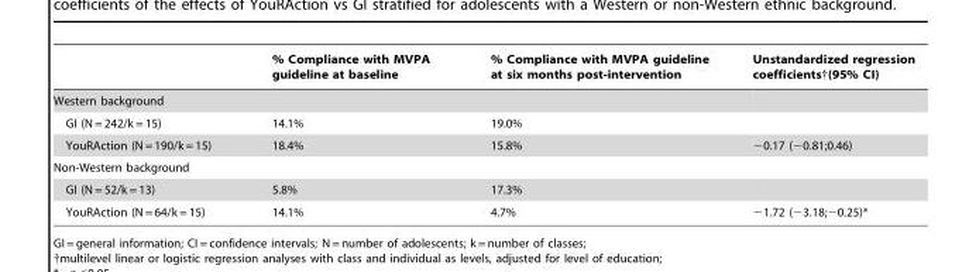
<table><thead><tr><td></td><td>% Compliance with MVPA guideline at baseline</td><td>% Compliance with MVPA guideline at six months post-intervention</td><td>Unstandardized regression coefficients†(95% CI)</td></tr></thead><tbody><tr><td colspan="4">Western background</td></tr><tr><td>GI (N = 242/k = 15)</td><td>14.1%</td><td>19.0%</td><td></td></tr><tr><td>YouRAction (N = 190/k = 15)</td><td>18.4%</td><td>15.8%</td><td>−0.17 (−0.81;0.46)</td></tr><tr><td colspan="4">Non-Western background</td></tr><tr><td>GI (N = 52/k = 13)</td><td>5.8%</td><td>17.3%</td><td></td></tr><tr><td>YouRAction (N = 64/k = 15)</td><td>14.1%</td><td>4.7%</td><td>−1.72 (−3.18;−0.25)*</td></tr></tbody></table>